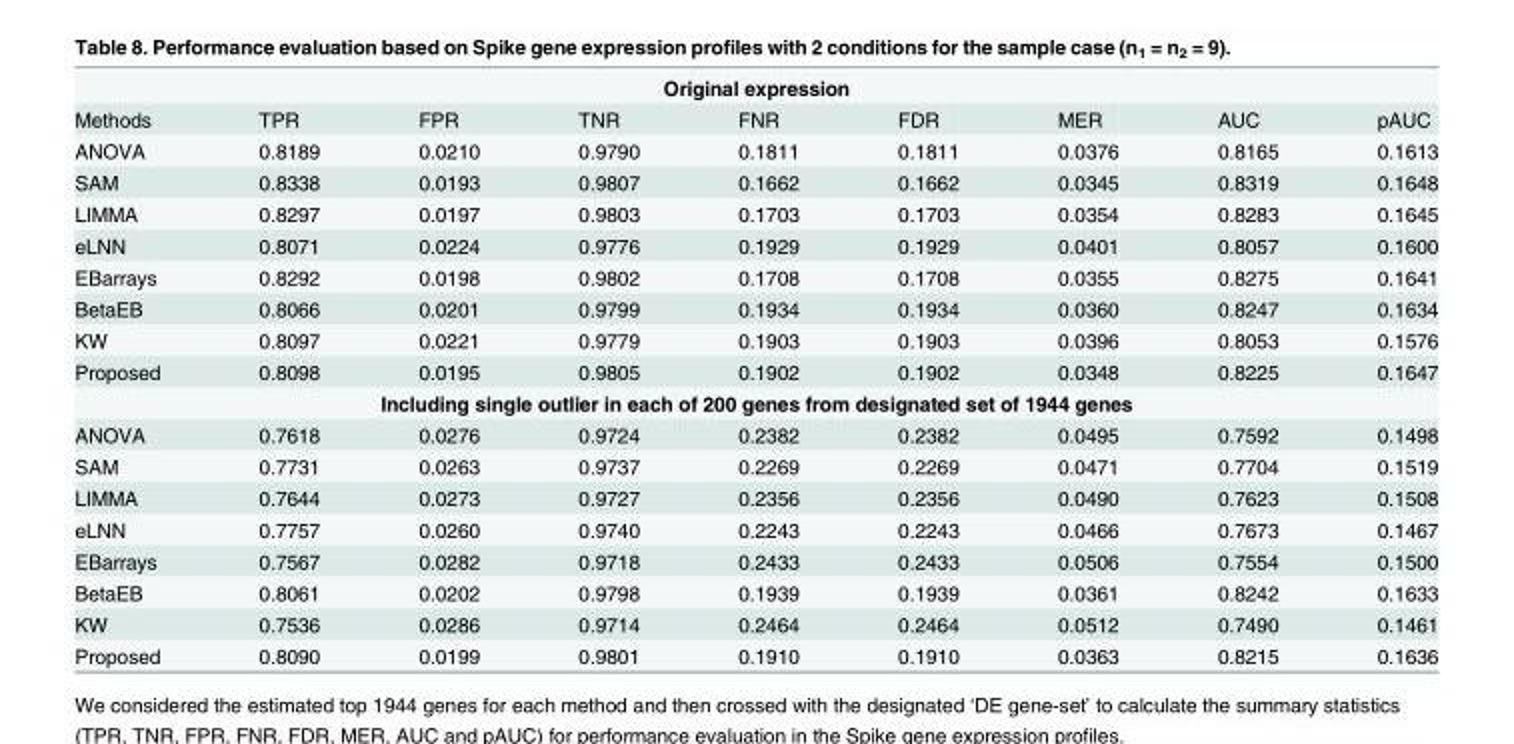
<table><tbody><tr><td colspan="9">Original expression</td></tr><tr><td>Methods</td><td>TPR</td><td>FPR</td><td>TNR</td><td>FNR</td><td>FDR</td><td>MER</td><td>AUC</td><td>pAUC</td></tr><tr><td>ANOVA</td><td>0.8189</td><td>0.0210</td><td>0.9790</td><td>0.1811</td><td>0.1811</td><td>0.0376</td><td>0.8165</td><td>0.1613</td></tr><tr><td>SAM</td><td>0.8338</td><td>0.0193</td><td>0.9807</td><td>0.1662</td><td>0.1662</td><td>0.0345</td><td>0.8319</td><td>0.1648</td></tr><tr><td>LIMMA</td><td>0.8297</td><td>0.0197</td><td>0.9803</td><td>0.1703</td><td>0.1703</td><td>0.0354</td><td>0.8283</td><td>0.1645</td></tr><tr><td>eLNN</td><td>0.8071</td><td>0.0224</td><td>0.9776</td><td>0.1929</td><td>0.1929</td><td>0.0401</td><td>0.8057</td><td>0.1600</td></tr><tr><td>EBarrays</td><td>0.8292</td><td>0.0198</td><td>0.9802</td><td>0.1708</td><td>0.1708</td><td>0.0355</td><td>0.8275</td><td>0.1641</td></tr><tr><td>BetaEB</td><td>0.8066</td><td>0.0201</td><td>0.9799</td><td>0.1934</td><td>0.1934</td><td>0.0360</td><td>0.8247</td><td>0.1634</td></tr><tr><td>KW</td><td>0.8097</td><td>0.0221</td><td>0.9779</td><td>0.1903</td><td>0.1903</td><td>0.0396</td><td>0.8053</td><td>0.1576</td></tr><tr><td>Proposed</td><td>0.8098</td><td>0.0195</td><td>0.9805</td><td>0.1902</td><td>0.1902</td><td>0.0348</td><td>0.8225</td><td>0.1647</td></tr><tr><td colspan="9">Including single outlier in each of 200 genes from designated set of 1944 genes</td></tr><tr><td>ANOVA</td><td>0.7618</td><td>0.0276</td><td>0.9724</td><td>0.2382</td><td>0.2382</td><td>0.0495</td><td>0.7592</td><td>0.1498</td></tr><tr><td>SAM</td><td>0.7731</td><td>0.0263</td><td>0.9737</td><td>0.2269</td><td>0.2269</td><td>0.0471</td><td>0.7704</td><td>0.1519</td></tr><tr><td>LIMMA</td><td>0.7644</td><td>0.0273</td><td>0.9727</td><td>0.2356</td><td>0.2356</td><td>0.0490</td><td>0.7623</td><td>0.1508</td></tr><tr><td>eLNN</td><td>0.7757</td><td>0.0260</td><td>0.9740</td><td>0.2243</td><td>0.2243</td><td>0.0466</td><td>0.7673</td><td>0.1467</td></tr><tr><td>EBarrays</td><td>0.7567</td><td>0.0282</td><td>0.9718</td><td>0.2433</td><td>0.2433</td><td>0.0506</td><td>0.7554</td><td>0.1500</td></tr><tr><td>BetaEB</td><td>0.8061</td><td>0.0202</td><td>0.9798</td><td>0.1939</td><td>0.1939</td><td>0.0361</td><td>0.8242</td><td>0.1633</td></tr><tr><td>KW</td><td>0.7536</td><td>0.0286</td><td>0.9714</td><td>0.2464</td><td>0.2464</td><td>0.0512</td><td>0.7490</td><td>0.1461</td></tr><tr><td>Proposed</td><td>0.8090</td><td>0.0199</td><td>0.9801</td><td>0.1910</td><td>0.1910</td><td>0.0363</td><td>0.8215</td><td>0.1636</td></tr></tbody></table>